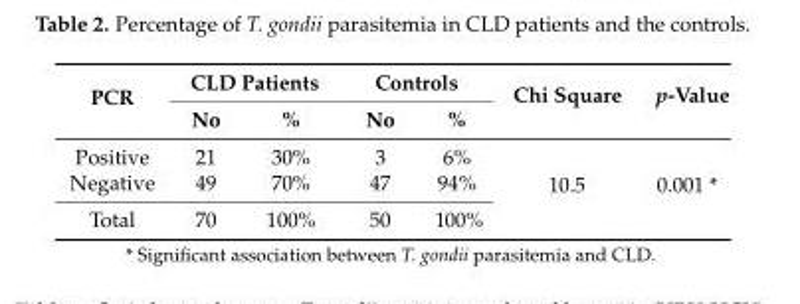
<table><thead><tr><td rowspan="2">PCR</td><td colspan="2">CLD Patients</td><td colspan="2">Controls</td><td rowspan="2">Chi Square</td><td rowspan="2">p-Value</td></tr><tr><td>No</td><td>%</td><td>No</td><td>%</td></tr></thead><tbody><tr><td>Positive</td><td>21</td><td>30%</td><td>3</td><td>6%</td><td rowspan="3">10.5</td><td rowspan="3">0.001 *</td></tr><tr><td>Negative</td><td>49</td><td>70%</td><td>47</td><td>94%</td></tr><tr><td>Total</td><td>70</td><td>100%</td><td>50</td><td>100%</td></tr></tbody></table>